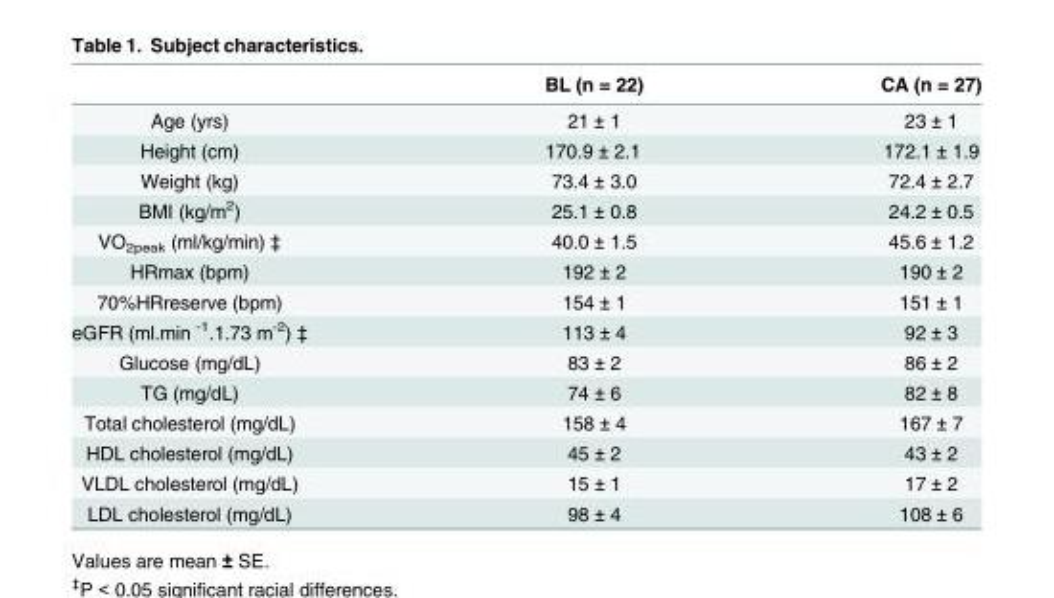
<table><thead><tr><td></td><td>BL (n = 22)</td><td>CA (n = 27)</td></tr></thead><tbody><tr><td>Age (yrs)</td><td>21 ± 1</td><td>23 ± 1</td></tr><tr><td>Height (cm)</td><td>170.9 ± 2.1</td><td>172.1 ± 1.9</td></tr><tr><td>Weight (kg)</td><td>73.4 ± 3.0</td><td>72.4 ± 2.7</td></tr><tr><td>BMI (kg/m<sup>2</sup>)</td><td>25.1 ± 0.8</td><td>24.2 ± 0.5</td></tr><tr><td>VO<sub>2peak</sub> (ml/kg/min) ‡</td><td>40.0 ± 1.5</td><td>45.6 ± 1.2</td></tr><tr><td>HRmax (bpm)</td><td>192 ± 2</td><td>190 ± 2</td></tr><tr><td>70%HRreserve (bpm)</td><td>154 ± 1</td><td>151 ± 1</td></tr><tr><td>eGFR (ml.min <sup>-1</sup>.1.73 m<sup>-2</sup>) ‡</td><td>113 ± 4</td><td>92 ± 3</td></tr><tr><td>Glucose (mg/dL)</td><td>83 ± 2</td><td>86 ± 2</td></tr><tr><td>TG (mg/dL)</td><td>74 ± 6</td><td>82 ± 8</td></tr><tr><td>Total cholesterol (mg/dL)</td><td>158 ± 4</td><td>167 ± 7</td></tr><tr><td>HDL cholesterol (mg/dL)</td><td>45 ± 2</td><td>43 ± 2</td></tr><tr><td>VLDL cholesterol (mg/dL)</td><td>15 ± 1</td><td>17 ± 2</td></tr><tr><td>LDL cholesterol (mg/dL)</td><td>98 ± 4</td><td>108 ± 6</td></tr></tbody></table>